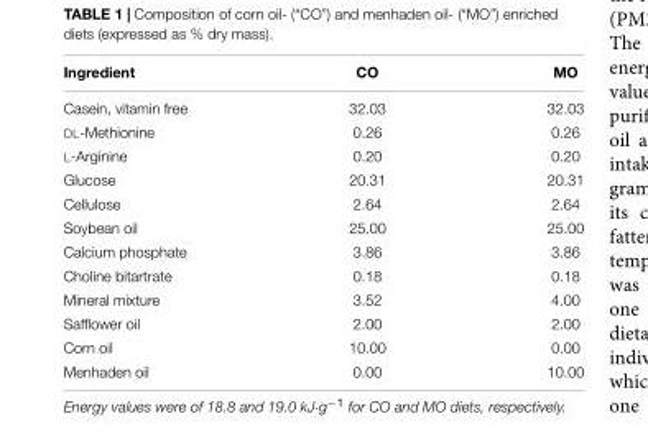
<table><thead><tr><td>Ingredient</td><td>CO</td><td>MO</td></tr></thead><tbody><tr><td>Casein, vitamin free</td><td>32.03</td><td>32.03</td></tr><tr><td>DL-Methionine</td><td>0.26</td><td>0.26</td></tr><tr><td>L-Arginine</td><td>0.20</td><td>0.20</td></tr><tr><td>Glucose</td><td>20.31</td><td>20.31</td></tr><tr><td>Cellulose</td><td>2.64</td><td>2.64</td></tr><tr><td>Soybean oil</td><td>25.00</td><td>25.00</td></tr><tr><td>Calcium phosphate</td><td>3.86</td><td>3.86</td></tr><tr><td>Choline bitartrate</td><td>0.18</td><td>0.18</td></tr><tr><td>Mineral mixture</td><td>3.52</td><td>4.00</td></tr><tr><td>Safflower oil</td><td>2.00</td><td>2.00</td></tr><tr><td>Corn oil</td><td>10.00</td><td>0.00</td></tr><tr><td>Menhaden oil</td><td>0.00</td><td>10.00</td></tr></tbody></table>